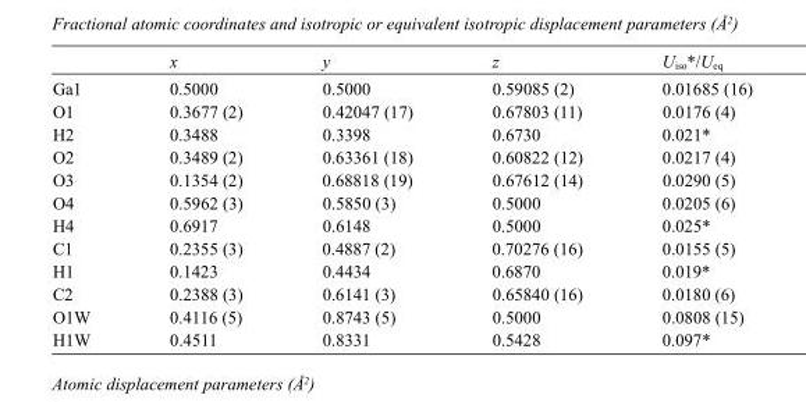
<table><thead><tr><td></td><td>x</td><td>y</td><td>z</td><td>U<sub>iso</sub>*/U<sub>eq</sub></td></tr></thead><tbody><tr><td>Ga1</td><td>0.5000</td><td>0.5000</td><td>0.59085 (2)</td><td>0.01685 (16)</td></tr><tr><td>O1</td><td>0.3677 (2)</td><td>0.42047 (17)</td><td>0.67803 (11)</td><td>0.0176 (4)</td></tr><tr><td>H2</td><td>0.3488</td><td>0.3398</td><td>0.6730</td><td>0.021*</td></tr><tr><td>O2</td><td>0.3489 (2)</td><td>0.63361 (18)</td><td>0.60822 (12)</td><td>0.0217 (4)</td></tr><tr><td>O3</td><td>0.1354 (2)</td><td>0.68818 (19)</td><td>0.67612 (14)</td><td>0.0290 (5)</td></tr><tr><td>O4</td><td>0.5962 (3)</td><td>0.5850 (3)</td><td>0.5000</td><td>0.0205 (6)</td></tr><tr><td>H4</td><td>0.6917</td><td>0.6148</td><td>0.5000</td><td>0.025*</td></tr><tr><td>C1</td><td>0.2355 (3)</td><td>0.4887 (2)</td><td>0.70276 (16)</td><td>0.0155 (5)</td></tr><tr><td>H1</td><td>0.1423</td><td>0.4434</td><td>0.6870</td><td>0.019*</td></tr><tr><td>C2</td><td>0.2388 (3)</td><td>0.6141 (3)</td><td>0.65840 (16)</td><td>0.0180 (6)</td></tr><tr><td>O1W</td><td>0.4116 (5)</td><td>0.8743 (5)</td><td>0.5000</td><td>0.0808 (15)</td></tr><tr><td>H1W</td><td>0.4511</td><td>0.8331</td><td>0.5428</td><td>0.097*</td></tr></tbody></table>